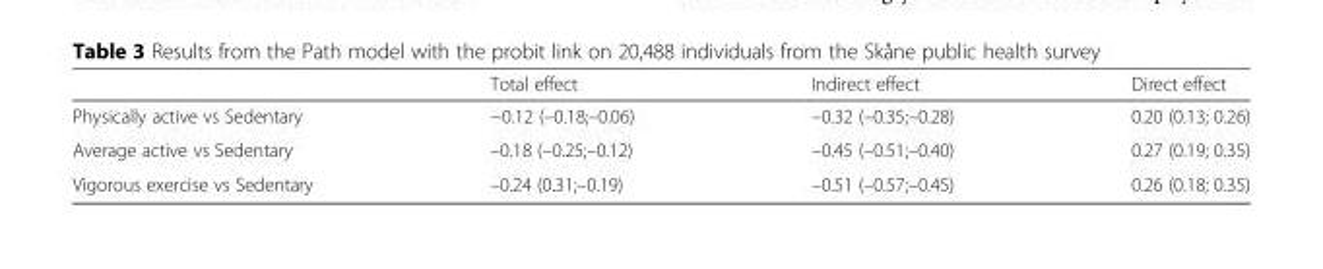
<table><thead><tr><td></td><td>Total effect</td><td>Indirect effect</td><td>Direct effect</td></tr></thead><tbody><tr><td>Physically active vs Sedentary</td><td>−0.12 (–0.18;–0.06)</td><td>–0.32 (–0.35;–0.28)</td><td>0.20 (0.13; 0.26)</td></tr><tr><td>Average active vs Sedentary</td><td>–0.18 (–0.25;–0.12)</td><td>–0.45 (–0.51;–0.40)</td><td>0.27 (0.19; 0.35)</td></tr><tr><td>Vigorous exercise vs Sedentary</td><td>–0.24 (0.31;–0.19)</td><td>–0.51 (–0.57;–0.45)</td><td>0.26 (0.18; 0.35)</td></tr></tbody></table>